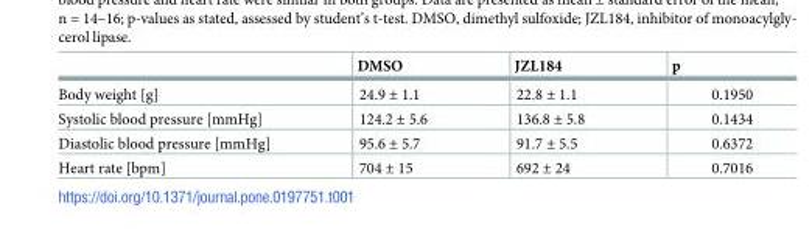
<table><thead><tr><td></td><td>DMSO</td><td>JZL184</td><td>p</td></tr></thead><tbody><tr><td>Body weight [g]</td><td>24.9 ± 1.1</td><td>22.8 ± 1.1</td><td>0.1950</td></tr><tr><td>Systolic blood pressure [mmHg]</td><td>124.2 ± 5.6</td><td>136.8 ± 5.8</td><td>0.1434</td></tr><tr><td>Diastolic blood pressure [mmHg]</td><td>95.6 ± 5.7</td><td>91.7 ± 5.5</td><td>0.6372</td></tr><tr><td>Heart rate [bpm]</td><td>704 ± 15</td><td>692 ± 24</td><td>0.7016</td></tr></tbody></table>